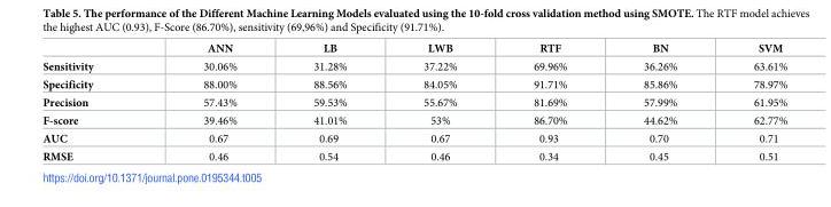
<table><thead><tr><td></td><td>ANN</td><td>LB</td><td>LWB</td><td>RTF</td><td>BN</td><td>SVM</td></tr></thead><tbody><tr><td>Sensitivity</td><td>30.06%</td><td>31.28%</td><td>37.22%</td><td>69.96%</td><td>36.26%</td><td>63.61%</td></tr><tr><td>Specificity</td><td>88.00%</td><td>88.56%</td><td>84.05%</td><td>91.71%</td><td>85.86%</td><td>78.97%</td></tr><tr><td>Precision</td><td>57.43%</td><td>59.53%</td><td>55.67%</td><td>81.69%</td><td>57.99%</td><td>61.95%</td></tr><tr><td>F-score</td><td>39.46%</td><td>41.01%</td><td>53%</td><td>86.70%</td><td>44.62%</td><td>62.77%</td></tr><tr><td>AUC</td><td>0.67</td><td>0.69</td><td>0.67</td><td>0.93</td><td>0.70</td><td>0.71</td></tr><tr><td>RMSE</td><td>0.46</td><td>0.54</td><td>0.46</td><td>0.34</td><td>0.45</td><td>0.51</td></tr></tbody></table>